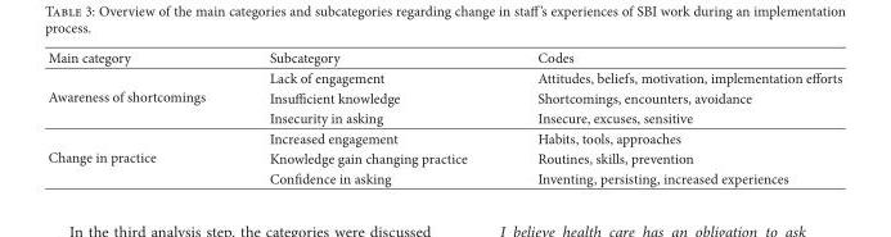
<table><thead><tr><td>Main category</td><td>Subcategory</td><td>Codes</td></tr></thead><tbody><tr><td rowspan="3">Awareness of shortcomings</td><td>Lack of engagement</td><td>Attitudes, beliefs, motivation, implementation efforts</td></tr><tr><td>Insufficient knowledge</td><td>Shortcomings, encounters, avoidance</td></tr><tr><td>Insecurity in asking</td><td>Insecure, excuses, sensitive</td></tr><tr><td rowspan="3">Change in practice</td><td>Increased engagement</td><td>Habits, tools, approaches</td></tr><tr><td>Knowledge gain changing practice</td><td>Routines, skills, prevention</td></tr><tr><td>Confidence in asking</td><td>Inventing, persisting, increased experiences</td></tr></tbody></table>